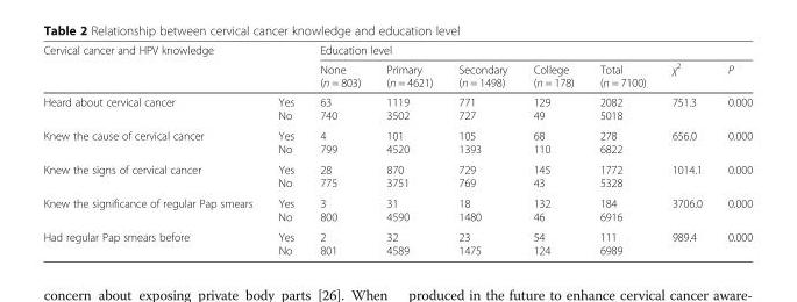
<table><thead><tr><td colspan="2">Cervical cancer and HPV knowledge</td><td colspan="7">Education level</td></tr><tr><td></td><td></td><td>None (n = 803)</td><td>Primary (n = 4621)</td><td>Secondary (n = 1498)</td><td>College (n = 178)</td><td>Total (n = 7100)</td><td>χ<sup>2</sup></td><td>P</td></tr></thead><tbody><tr><td>Heard about cervical cancer</td><td>Yes No</td><td>63 740</td><td>1119 3502</td><td>771 727</td><td>129 49</td><td>2082 5018</td><td>751.3</td><td>0.000</td></tr><tr><td>Knew the cause of cervical cancer</td><td>Yes No</td><td>4 799</td><td>101 4520</td><td>105 1393</td><td>68 110</td><td>278 6822</td><td>656.0</td><td>0.000</td></tr><tr><td>Knew the signs of cervical cancer</td><td>Yes No</td><td>28 775</td><td>870 3751</td><td>729 769</td><td>145 43</td><td>1772 5328</td><td>1014.1</td><td>0.000</td></tr><tr><td>Knew the significance of regular Pap smears</td><td>Yes No</td><td>3 800</td><td>31 4590</td><td>18 1480</td><td>132 46</td><td>184 6916</td><td>3706.0</td><td>0.000</td></tr><tr><td>Had regular Pap smears before</td><td>Yes No</td><td>2 801</td><td>32 4589</td><td>23 1475</td><td>54 124</td><td>111 6989</td><td>989.4</td><td>0.000</td></tr></tbody></table>